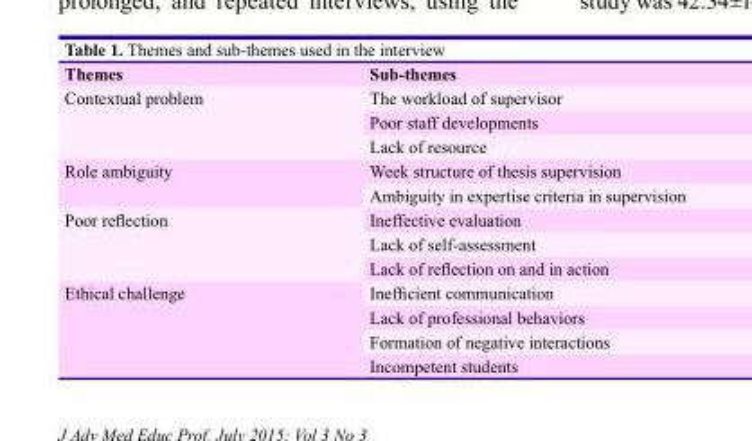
<table><thead><tr><td>Themes</td><td>Sub-themes</td></tr></thead><tbody><tr><td rowspan="3">Contextual problem</td><td>The workload of supervisor</td></tr><tr><td>Poor staff developments</td></tr><tr><td>Lack of resource</td></tr><tr><td rowspan="2">Role ambiguity</td><td>Week structure of thesis supervision</td></tr><tr><td>Ambiguity in expertise criteria in supervision</td></tr><tr><td rowspan="3">Poor reflection</td><td>Ineffective evaluation</td></tr><tr><td>Lack of self-assessment</td></tr><tr><td>Lack of reflection on and in action</td></tr><tr><td rowspan="4">Ethical challenge</td><td>Inefficient communication</td></tr><tr><td>Lack of professional behaviors</td></tr><tr><td>Formation of negative interactions</td></tr><tr><td>Incompetent students</td></tr></tbody></table>